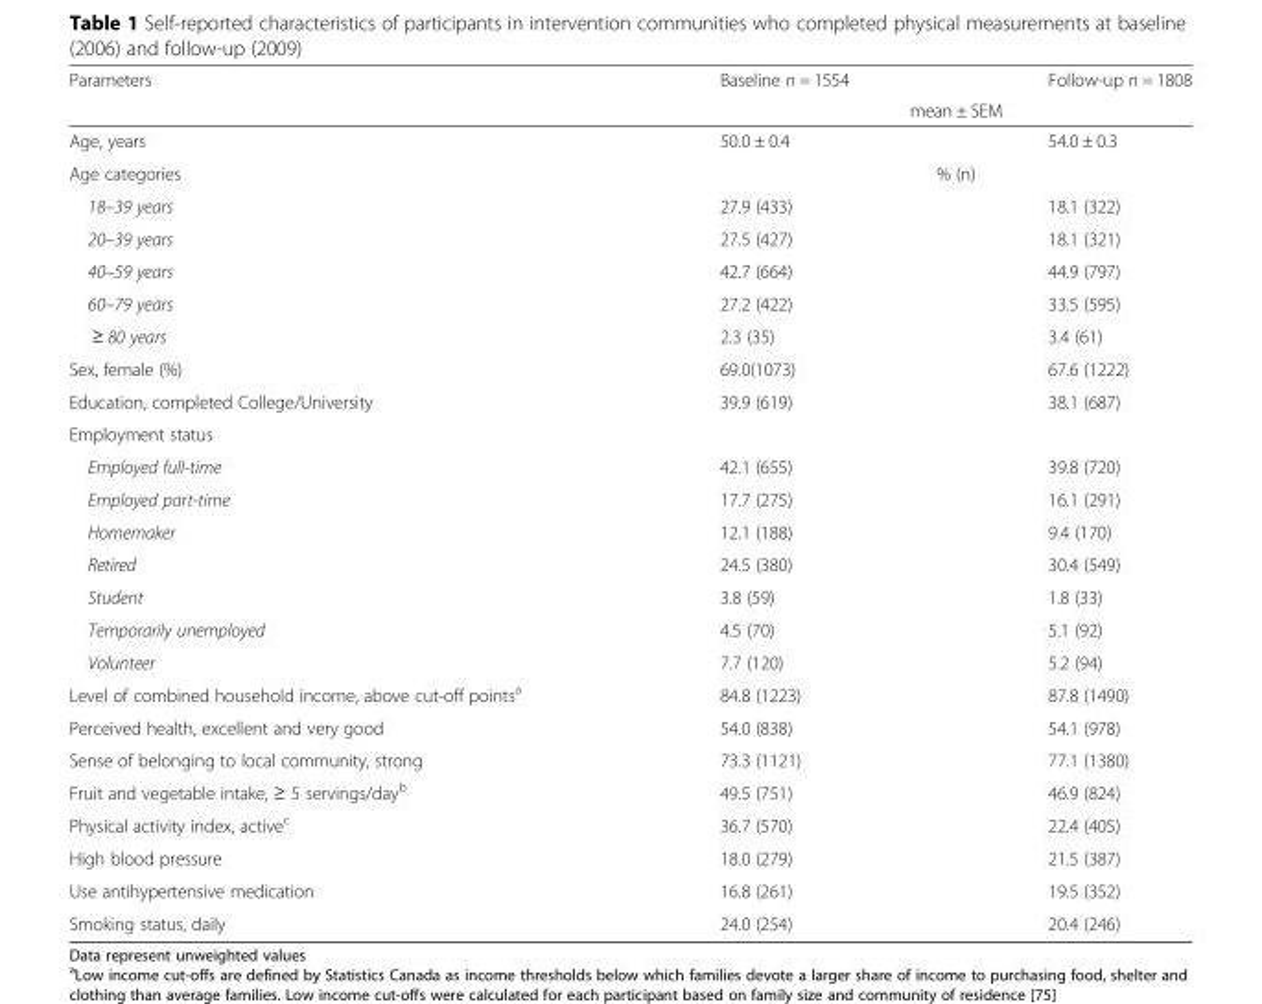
<table><thead><tr><td rowspan="2">Parameters</td><td>Baseline n = 1554</td><td>Follow-up n = 1808</td></tr><tr><td colspan="2">mean ± SEM</td></tr></thead><tbody><tr><td>Age, years</td><td>50.0 ± 0.4</td><td>54.0 ± 0.3</td></tr><tr><td>Age categories</td><td colspan="2">% (n)</td></tr><tr><td>18–39 years</td><td>27.9 (433)</td><td>18.1 (322)</td></tr><tr><td>20–39 years</td><td>27.5 (427)</td><td>18.1 (321)</td></tr><tr><td>40–59 years</td><td>42.7 (664)</td><td>44.9 (797)</td></tr><tr><td>60–79 years</td><td>27.2 (422)</td><td>33.5 (595)</td></tr><tr><td>≥ 80 years</td><td>2.3 (35)</td><td>3.4 (61)</td></tr><tr><td>Sex, female (%)</td><td>69.0(1073)</td><td>67.6 (1222)</td></tr><tr><td>Education, completed College/University</td><td>39.9 (619)</td><td>38.1 (687)</td></tr><tr><td colspan="3">Employment status</td></tr><tr><td>Employed full-time</td><td>42.1 (655)</td><td>39.8 (720)</td></tr><tr><td>Employed part-time</td><td>17.7 (275)</td><td>16.1 (291)</td></tr><tr><td>Homemaker</td><td>12.1 (188)</td><td>9.4 (170)</td></tr><tr><td>Retired</td><td>24.5 (380)</td><td>30.4 (549)</td></tr><tr><td>Student</td><td>3.8 (59)</td><td>1.8 (33)</td></tr><tr><td>Temporarily unemployed</td><td>4.5 (70)</td><td>5.1 (92)</td></tr><tr><td>Volunteer</td><td>7.7 (120)</td><td>5.2 (94)</td></tr><tr><td>Level of combined household income, above cut-off points<sup>a</sup></td><td>84.8 (1223)</td><td>87.8 (1490)</td></tr><tr><td>Perceived health, excellent and very good</td><td>54.0 (838)</td><td>54.1 (978)</td></tr><tr><td>Sense of belonging to local community, strong</td><td>73.3 (1121)</td><td>77.1 (1380)</td></tr><tr><td>Fruit and vegetable intake, ≥ 5 servings/day<sup>b</sup></td><td>49.5 (751)</td><td>46.9 (824)</td></tr><tr><td>Physical activity index, active<sup>c</sup></td><td>36.7 (570)</td><td>22.4 (405)</td></tr><tr><td>High blood pressure</td><td>18.0 (279)</td><td>21.5 (387)</td></tr><tr><td>Use antihypertensive medication</td><td>16.8 (261)</td><td>19.5 (352)</td></tr><tr><td>Smoking status, daily</td><td>24.0 (254)</td><td>20.4 (246)</td></tr></tbody></table>